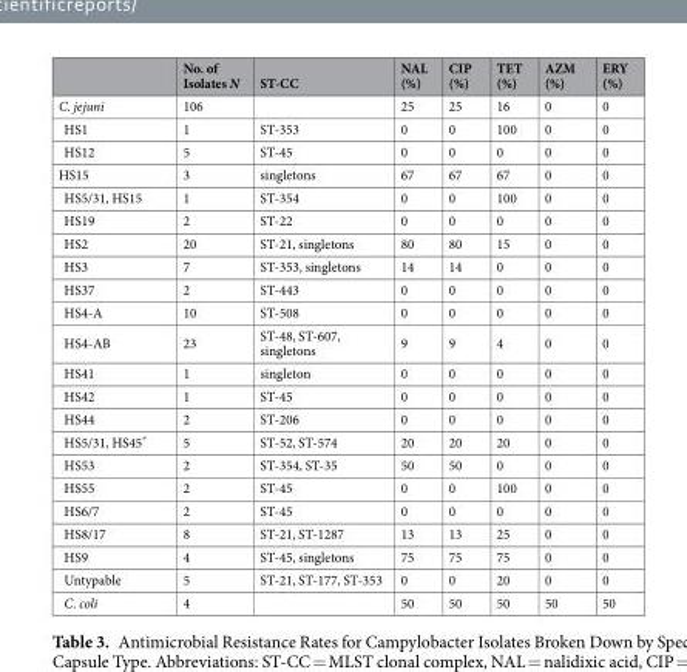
<table><thead><tr><td></td><td>No. of Isolates N</td><td>ST-CC</td><td>NAL (%)</td><td>CIP (%)</td><td>TET (%)</td><td>AZM (%)</td><td>ERY (%)</td></tr></thead><tbody><tr><td>C. jejuni</td><td>106</td><td></td><td>25</td><td>25</td><td>16</td><td>0</td><td>0</td></tr><tr><td>HS1</td><td>1</td><td>ST-353</td><td>0</td><td>0</td><td>100</td><td>0</td><td>0</td></tr><tr><td>HS12</td><td>5</td><td>ST-45</td><td>0</td><td>0</td><td>0</td><td>0</td><td>0</td></tr><tr><td>HS15</td><td>3</td><td>singletons</td><td>67</td><td>67</td><td>67</td><td>0</td><td>0</td></tr><tr><td>HS5/31, HS15</td><td>1</td><td>ST-354</td><td>0</td><td>0</td><td>100</td><td>0</td><td>0</td></tr><tr><td>HS19</td><td>2</td><td>ST-22</td><td>0</td><td>0</td><td>0</td><td>0</td><td>0</td></tr><tr><td>HS2</td><td>20</td><td>ST-21, singletons</td><td>80</td><td>80</td><td>15</td><td>0</td><td>0</td></tr><tr><td>HS3</td><td>7</td><td>ST-353, singletons</td><td>14</td><td>14</td><td>0</td><td>0</td><td>0</td></tr><tr><td>HS37</td><td>2</td><td>ST-443</td><td>0</td><td>0</td><td>0</td><td>0</td><td>0</td></tr><tr><td>HS4-A</td><td>10</td><td>ST-508</td><td>0</td><td>0</td><td>0</td><td>0</td><td>0</td></tr><tr><td>HS4-AB</td><td>23</td><td>ST-48, ST-607, singletons</td><td>9</td><td>9</td><td>4</td><td>0</td><td>0</td></tr><tr><td>HS41</td><td>1</td><td>singleton</td><td>0</td><td>0</td><td>0</td><td>0</td><td>0</td></tr><tr><td>HS42</td><td>1</td><td>ST-45</td><td>0</td><td>0</td><td>0</td><td>0</td><td>0</td></tr><tr><td>HS44</td><td>2</td><td>ST-206</td><td>0</td><td>0</td><td>0</td><td>0</td><td>0</td></tr><tr><td>HS5/31, HS45*</td><td>5</td><td>ST-52, ST-574</td><td>20</td><td>20</td><td>20</td><td>0</td><td>0</td></tr><tr><td>HS53</td><td>2</td><td>ST-354, ST-35</td><td>50</td><td>50</td><td>0</td><td>0</td><td>0</td></tr><tr><td>HS55</td><td>2</td><td>ST-45</td><td>0</td><td>0</td><td>100</td><td>0</td><td>0</td></tr><tr><td>HS6/7</td><td>2</td><td>ST-45</td><td>0</td><td>0</td><td>0</td><td>0</td><td>0</td></tr><tr><td>HS8/17</td><td>8</td><td>ST-21, ST-1287</td><td>13</td><td>13</td><td>25</td><td>0</td><td>0</td></tr><tr><td>HS9</td><td>4</td><td>ST-45, singletons</td><td>75</td><td>75</td><td>75</td><td>0</td><td>0</td></tr><tr><td>Untypable</td><td>5</td><td>ST-21, ST-177, ST-353</td><td>0</td><td>0</td><td>20</td><td>0</td><td>0</td></tr><tr><td>C. coli</td><td>4</td><td></td><td>50</td><td>50</td><td>50</td><td>50</td><td>50</td></tr></tbody></table>